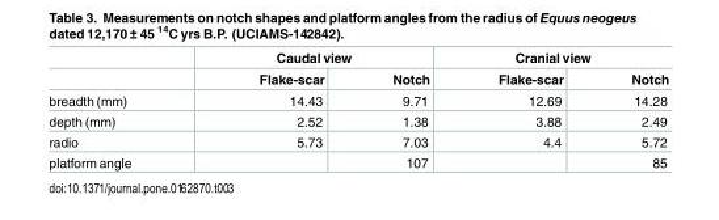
<table><thead><tr><td rowspan="2"></td><td colspan="2">Caudal view</td><td colspan="2">Cranial view</td></tr><tr><td>Flake-scar</td><td>Notch</td><td>Flake-scar</td><td>Notch</td></tr></thead><tbody><tr><td>breadth (mm)</td><td>14.43</td><td>9.71</td><td>12.69</td><td>14.28</td></tr><tr><td>depth (mm)</td><td>2.52</td><td>1.38</td><td>3.88</td><td>2.49</td></tr><tr><td>radio</td><td>5.73</td><td>7.03</td><td>4.4</td><td>5.72</td></tr><tr><td>platform angle</td><td></td><td>107</td><td></td><td>85</td></tr></tbody></table>